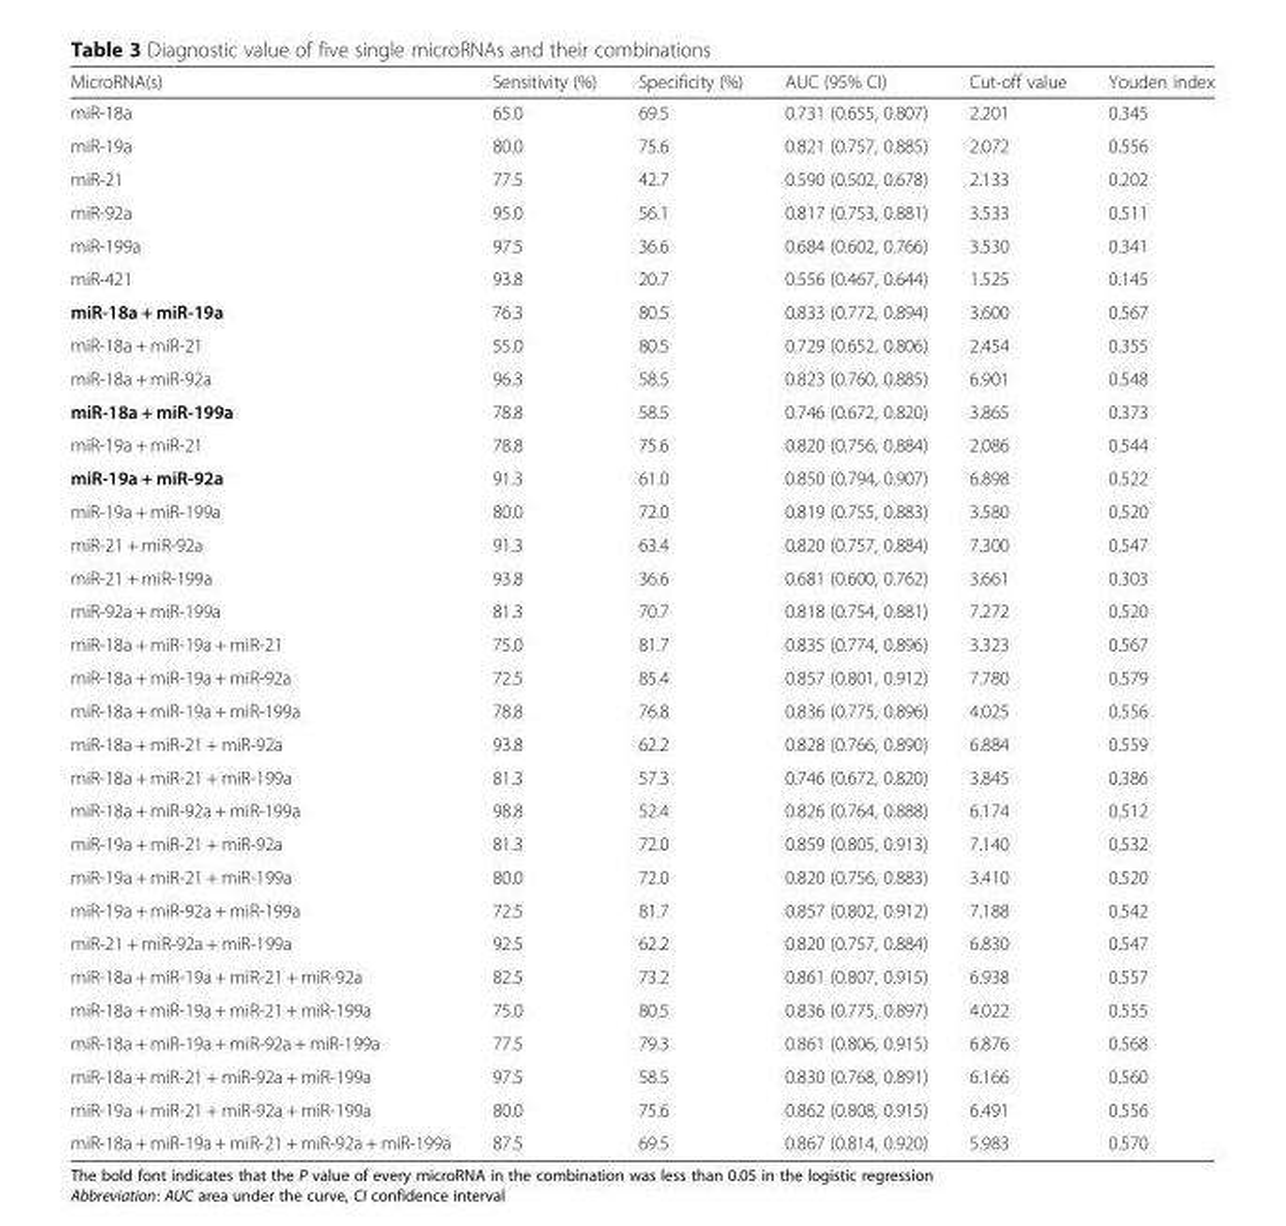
<table><thead><tr><td>MicroRNA(s)</td><td>Sensitivity (%)</td><td>Specificity (%)</td><td>AUC (95% CI)</td><td>Cut-off value</td><td>Youden index</td></tr></thead><tbody><tr><td>miR-18a</td><td>65.0</td><td>69.5</td><td>0.731 (0.655, 0.807)</td><td>2.201</td><td>0.345</td></tr><tr><td>miR-19a</td><td>80.0</td><td>75.6</td><td>0.821 (0.757, 0.885)</td><td>2.072</td><td>0.556</td></tr><tr><td>miR-21</td><td>77.5</td><td>42.7</td><td>0.590 (0.502, 0.678)</td><td>2.133</td><td>0.202</td></tr><tr><td>miR-92a</td><td>95.0</td><td>56.1</td><td>0.817 (0.753, 0.881)</td><td>3.533</td><td>0.511</td></tr><tr><td>miR-199a</td><td>97.5</td><td>36.6</td><td>0.684 (0.602, 0.766)</td><td>3.530</td><td>0.341</td></tr><tr><td>miR-421</td><td>93.8</td><td>20.7</td><td>0.556 (0.467, 0.644)</td><td>1.525</td><td>0.145</td></tr><tr><td>miR-18a + miR-19a</td><td>76.3</td><td>80.5</td><td>0.833 (0.772, 0.894)</td><td>3.600</td><td>0.567</td></tr><tr><td>miR-18a + miR-21</td><td>55.0</td><td>80.5</td><td>0.729 (0.652, 0.806)</td><td>2.454</td><td>0.355</td></tr><tr><td>miR-18a + miR-92a</td><td>96.3</td><td>58.5</td><td>0.823 (0.760, 0.885)</td><td>6.901</td><td>0.548</td></tr><tr><td>miR-18a + miR-199a</td><td>78.8</td><td>58.5</td><td>0.746 (0.672, 0.820)</td><td>3.865</td><td>0.373</td></tr><tr><td>miR-19a + miR-21</td><td>78.8</td><td>75.6</td><td>0.820 (0.756, 0.884)</td><td>2.086</td><td>0.544</td></tr><tr><td>miR-19a + miR-92a</td><td>91.3</td><td>61.0</td><td>0.850 (0.794, 0.907)</td><td>6.898</td><td>0.522</td></tr><tr><td>miR-19a + miR-199a</td><td>80.0</td><td>72.0</td><td>0.819 (0.755, 0.883)</td><td>3.580</td><td>0.520</td></tr><tr><td>miR-21 + miR-92a</td><td>91.3</td><td>63.4</td><td>0.820 (0.757, 0.884)</td><td>7.300</td><td>0.547</td></tr><tr><td>miR-21 + miR-199a</td><td>93.8</td><td>36.6</td><td>0.681 (0.600, 0.762)</td><td>3.661</td><td>0.303</td></tr><tr><td>miR-92a + miR-199a</td><td>81.3</td><td>70.7</td><td>0.818 (0.754, 0.881)</td><td>7.272</td><td>0.520</td></tr><tr><td>miR-18a + miR-19a + miR-21</td><td>75.0</td><td>81.7</td><td>0.835 (0.774, 0.896)</td><td>3.323</td><td>0.567</td></tr><tr><td>miR-18a + miR-19a + miR-92a</td><td>72.5</td><td>85.4</td><td>0.857 (0.801, 0.912)</td><td>7.780</td><td>0.579</td></tr><tr><td>miR-18a + miR-19a + miR-199a</td><td>78.8</td><td>76.8</td><td>0.836 (0.775, 0.896)</td><td>4.025</td><td>0.556</td></tr><tr><td>miR-18a + miR-21 + miR-92a</td><td>93.8</td><td>62.2</td><td>0.828 (0.766, 0.890)</td><td>6.884</td><td>0.559</td></tr><tr><td>miR-18a + miR-21 + miR-199a</td><td>81.3</td><td>57.3</td><td>0.746 (0.672, 0.820)</td><td>3.845</td><td>0.386</td></tr><tr><td>miR-18a + miR-92a + miR-199a</td><td>98.8</td><td>52.4</td><td>0.826 (0.764, 0.888)</td><td>6.174</td><td>0.512</td></tr><tr><td>miR-19a + miR-21 + miR-92a</td><td>81.3</td><td>72.0</td><td>0.859 (0.805, 0.913)</td><td>7.140</td><td>0.532</td></tr><tr><td>miR-19a + miR-21 + miR-199a</td><td>80.0</td><td>72.0</td><td>0.820 (0.756, 0.883)</td><td>3.410</td><td>0.520</td></tr><tr><td>miR-19a + miR-92a + miR-199a</td><td>72.5</td><td>81.7</td><td>0.857 (0.802, 0.912)</td><td>7.188</td><td>0.542</td></tr><tr><td>miR-21 + miR-92a + miR-199a</td><td>92.5</td><td>62.2</td><td>0.820 (0.757, 0.884)</td><td>6.830</td><td>0.547</td></tr><tr><td>miR-18a + miR-19a + miR-21 + miR-92a</td><td>82.5</td><td>73.2</td><td>0.861 (0.807, 0.915)</td><td>6.938</td><td>0.557</td></tr><tr><td>miR-18a + miR-19a + miR-21 + miR-199a</td><td>75.0</td><td>80.5</td><td>0.836 (0.775, 0.897)</td><td>4.022</td><td>0.555</td></tr><tr><td>miR-18a + miR-19a + miR-92a + miR-199a</td><td>77.5</td><td>79.3</td><td>0.861 (0.806, 0.915)</td><td>6.876</td><td>0.568</td></tr><tr><td>miR-18a + miR-21 + miR-92a + miR-199a</td><td>97.5</td><td>58.5</td><td>0.830 (0.768, 0.891)</td><td>6.166</td><td>0.560</td></tr><tr><td>miR-19a + miR-21 + miR-92a + miR-199a</td><td>80.0</td><td>75.6</td><td>0.862 (0.808, 0.915)</td><td>6.491</td><td>0.556</td></tr><tr><td>miR-18a + miR-19a + miR-21 + miR-92a + miR-199a</td><td>87.5</td><td>69.5</td><td>0.867 (0.814, 0.920)</td><td>5.983</td><td>0.570</td></tr></tbody></table>